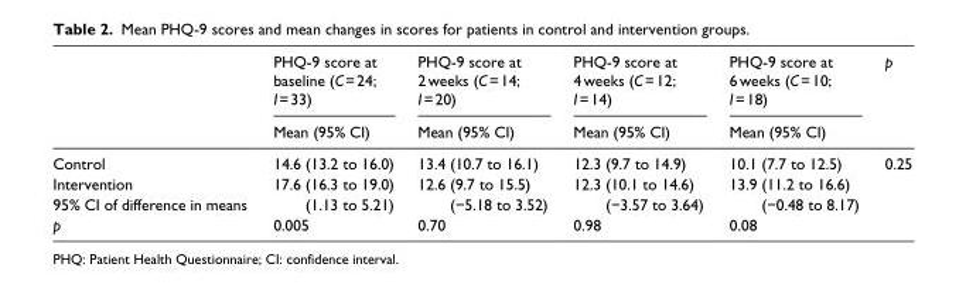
<table><thead><tr><td rowspan="2"></td><td rowspan="2">PHQ-9 score at baseline (C = 24; I = 33) Mean (95% CI)</td><td rowspan="2">PHQ-9 score at 2 weeks (C = 14; I = 20) Mean (95% CI)</td><td rowspan="2">PHQ-9 score at 4 weeks (C = 12; I = 14) Mean (95% CI)</td><td rowspan="2">PHQ-9 score at 6 weeks (C = 10; I = 18) Mean (95% CI)</td><td rowspan="2">p</td></tr><tr></tr></thead><tbody><tr><td>Control</td><td>14.6 (13.2 to 16.0)</td><td>13.4 (10.7 to 16.1)</td><td>12.3 (9.7 to 14.9)</td><td>10.1 (7.7 to 12.5)</td><td rowspan="2">0.25</td></tr><tr><td>Intervention</td><td>17.6 (16.3 to 19.0)</td><td>12.6 (9.7 to 15.5)</td><td>12.3 (10.1 to 14.6)</td><td>13.9 (11.2 to 16.6)</td></tr><tr><td>95% CI of difference in means</td><td>(1.13 to 5.21)</td><td>(−5.18 to 3.52)</td><td>(−3.57 to 3.64)</td><td>(−0.48 to 8.17)</td><td></td></tr><tr><td>p</td><td>0.005</td><td>0.70</td><td>0.98</td><td>0.08</td><td></td></tr></tbody></table>